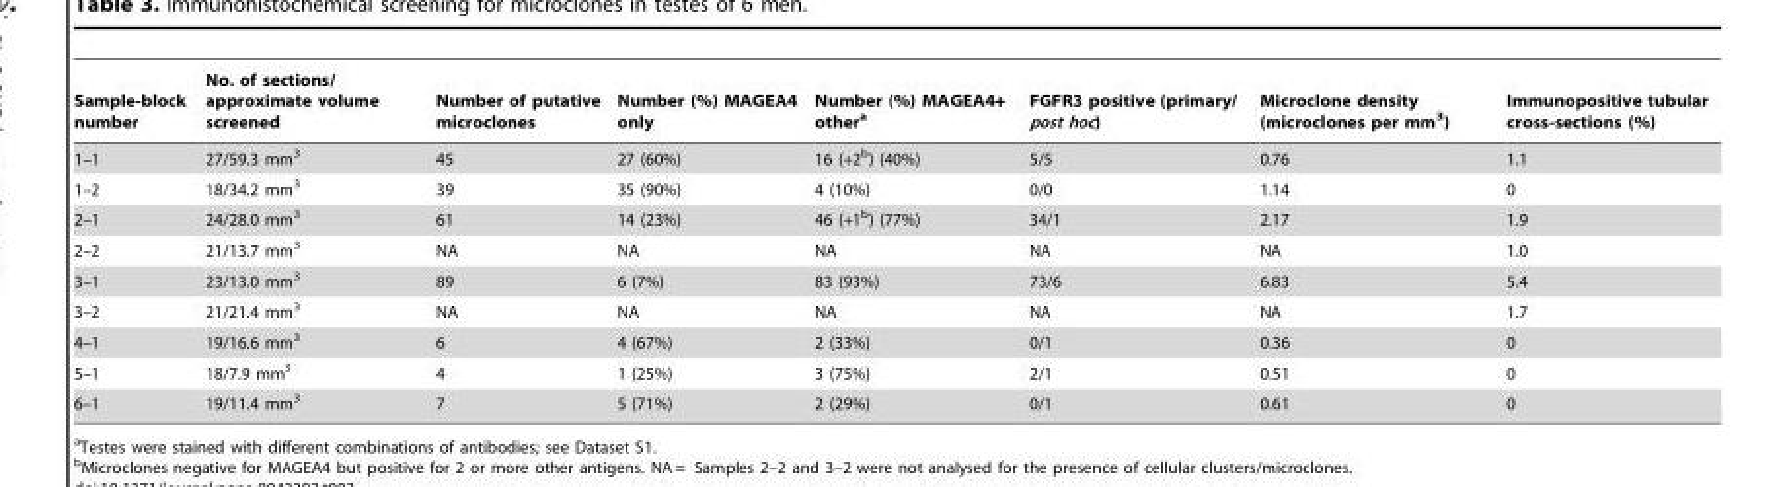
<table><thead><tr><td>Sample-block number</td><td>No. of sections/ approximate volume screened</td><td>Number of putative microclones</td><td>Number (%) MAGEA4 only</td><td>Number (%) MAGEA4+ other<sup>a</sup></td><td>FGFR3 positive (primary/ post hoc)</td><td>Microclone density (microclones per mm<sup>3</sup>)</td><td>Immunopositive tubular cross-sections (%)</td></tr></thead><tbody><tr><td>1–1</td><td>27/59.3 mm<sup>3</sup></td><td>45</td><td>27 (60%)</td><td>16 (+2<sup>b</sup>) (40%)</td><td>5/5</td><td>0.76</td><td>1.1</td></tr><tr><td>1–2</td><td>18/34.2 mm<sup>3</sup></td><td>39</td><td>35 (90%)</td><td>4 (10%)</td><td>0/0</td><td>1.14</td><td>0</td></tr><tr><td>2–1</td><td>24/28.0 mm<sup>3</sup></td><td>61</td><td>14 (23%)</td><td>46 (+1<sup>b</sup>) (77%)</td><td>34/1</td><td>2.17</td><td>1.9</td></tr><tr><td>2–2</td><td>21/13.7 mm<sup>3</sup></td><td>NA</td><td>NA</td><td>NA</td><td>NA</td><td>NA</td><td>1.0</td></tr><tr><td>3–1</td><td>23/13.0 mm<sup>3</sup></td><td>89</td><td>6 (7%)</td><td>83 (93%)</td><td>73/6</td><td>6.83</td><td>5.4</td></tr><tr><td>3–2</td><td>21/21.4 mm<sup>3</sup></td><td>NA</td><td>NA</td><td>NA</td><td>NA</td><td>NA</td><td>1.7</td></tr><tr><td>4–1</td><td>19/16.6 mm<sup>3</sup></td><td>6</td><td>4 (67%)</td><td>2 (33%)</td><td>0/1</td><td>0.36</td><td>0</td></tr><tr><td>5–1</td><td>18/7.9 mm<sup>3</sup></td><td>4</td><td>1 (25%)</td><td>3 (75%)</td><td>2/1</td><td>0.51</td><td>0</td></tr><tr><td>6–1</td><td>19/11.4 mm<sup>3</sup></td><td>7</td><td>5 (71%)</td><td>2 (29%)</td><td>0/1</td><td>0.61</td><td>0</td></tr></tbody></table>